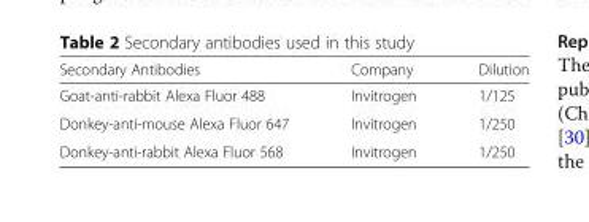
<table><thead><tr><td>Secondary Antibodies</td><td>Company</td><td>Dilution</td></tr></thead><tbody><tr><td>Goat-anti-rabbit Alexa Fluor 488</td><td>Invitrogen</td><td>1/125</td></tr><tr><td>Donkey-anti-mouse Alexa Fluor 647</td><td>Invitrogen</td><td>1/250</td></tr><tr><td>Donkey-anti-rabbit Alexa Fluor 568</td><td>Invitrogen</td><td>1/250</td></tr></tbody></table>